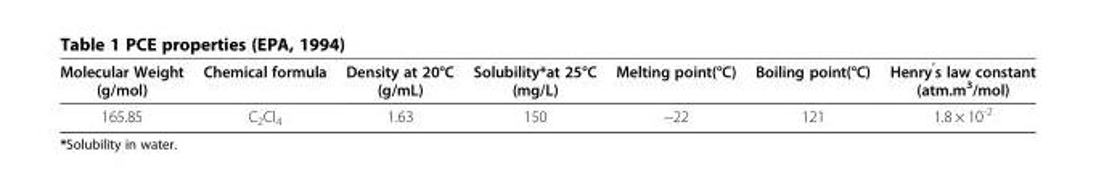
<table><thead><tr><td>Molecular Weight (g/mol)</td><td>Chemical formula</td><td>Density at 20°C (g/mL)</td><td>Solubility*at 25°C (mg/L)</td><td>Melting point(°C)</td><td>Boiling point(°C)</td><td>Henry<sup>’</sup>s law constant (atm.m<sup>3</sup>/mol)</td></tr></thead><tbody><tr><td>165.85</td><td>C<sub>2</sub>Cl<sub>4</sub></td><td>1.63</td><td>150</td><td>−22</td><td>121</td><td>1.8 × 10<sup>-2</sup></td></tr></tbody></table>